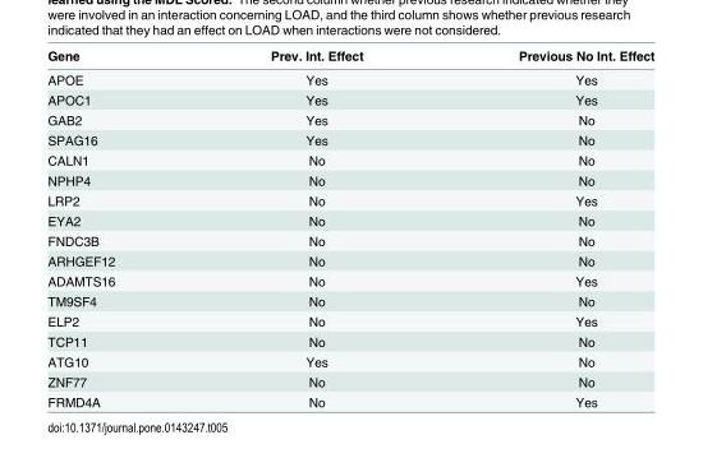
<table><thead><tr><td>Gene</td><td>Prev. Int. Effect</td><td>Previous No Int. Effect</td></tr></thead><tbody><tr><td>APOE</td><td>Yes</td><td>Yes</td></tr><tr><td>APOC1</td><td>Yes</td><td>Yes</td></tr><tr><td>GAB2</td><td>Yes</td><td>No</td></tr><tr><td>SPAG16</td><td>Yes</td><td>No</td></tr><tr><td>CALN1</td><td>No</td><td>No</td></tr><tr><td>NPHP4</td><td>No</td><td>No</td></tr><tr><td>LRP2</td><td>No</td><td>Yes</td></tr><tr><td>EYA2</td><td>No</td><td>No</td></tr><tr><td>FNDC3B</td><td>No</td><td>No</td></tr><tr><td>ARHGEF12</td><td>No</td><td>No</td></tr><tr><td>ADAMTS16</td><td>No</td><td>Yes</td></tr><tr><td>TM9SF4</td><td>No</td><td>No</td></tr><tr><td>ELP2</td><td>No</td><td>Yes</td></tr><tr><td>TCP11</td><td>No</td><td>No</td></tr><tr><td>ATG10</td><td>Yes</td><td>No</td></tr><tr><td>ZNF77</td><td>No</td><td>No</td></tr><tr><td>FRMD4A</td><td>No</td><td>Yes</td></tr></tbody></table>